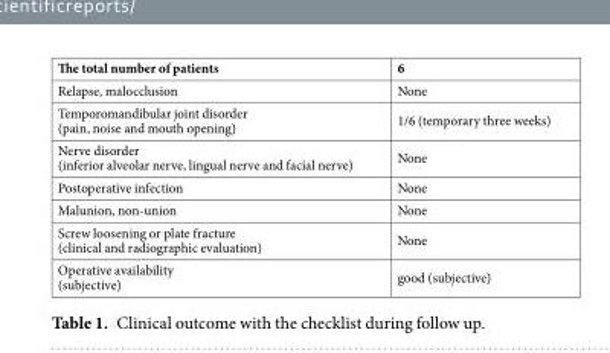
<table><tbody><tr><td>The total number of patients</td><td>6</td></tr><tr><td>Relapse, malocclusion</td><td>None</td></tr><tr><td>Temporomandibular joint disorder (pain, noise and mouth opening)</td><td>1/6 (temporary three weeks)</td></tr><tr><td>Nerve disorder (inferior alveolar nerve, lingual nerve and facial nerve)</td><td>None</td></tr><tr><td>Postoperative infection</td><td>None</td></tr><tr><td>Malunion, non-union</td><td>None</td></tr><tr><td>Screw loosening or plate fracture (clinical and radiographic evaluation)</td><td>None</td></tr><tr><td>Operative availability (subjective)</td><td>good (subjective)</td></tr></tbody></table>